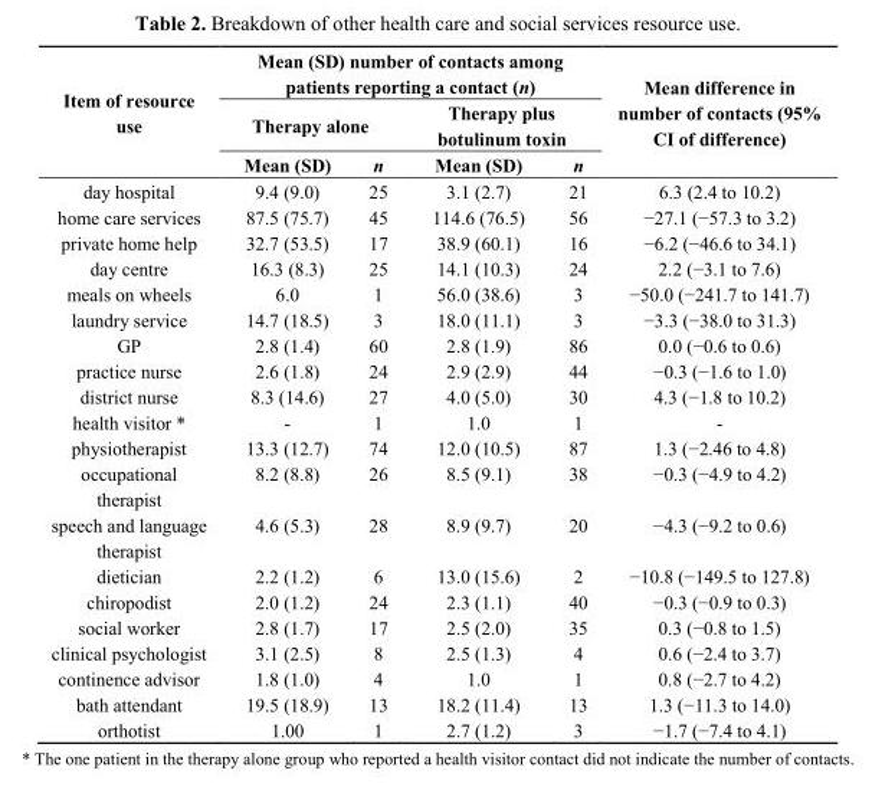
<table><thead><tr><td rowspan="3">Item of resource use</td><td colspan="4">Mean (SD) number of contacts among patients reporting a contact (n)</td><td rowspan="3">Mean difference in number of contacts (95% CI of difference)</td></tr><tr><td colspan="2">Therapy alone</td><td colspan="2">Therapy plus botulinum toxin</td></tr><tr><td>Mean (SD)</td><td>n</td><td>Mean (SD)</td><td>n</td></tr></thead><tbody><tr><td>day hospital</td><td>9.4 (9.0)</td><td>25</td><td>3.1 (2.7)</td><td>21</td><td>6.3 (2.4 to 10.2)</td></tr><tr><td>home care services</td><td>87.5 (75.7)</td><td>45</td><td>114.6 (76.5)</td><td>56</td><td>−27.1 (−57.3 to 3.2)</td></tr><tr><td>private home help</td><td>32.7 (53.5)</td><td>17</td><td>38.9 (60.1)</td><td>16</td><td>−6.2 (−46.6 to 34.1)</td></tr><tr><td>day centre</td><td>16.3 (8.3)</td><td>25</td><td>14.1 (10.3)</td><td>24</td><td>2.2 (−3.1 to 7.6)</td></tr><tr><td>meals on wheels</td><td>6.0</td><td>1</td><td>56.0 (38.6)</td><td>3</td><td>−50.0 (−241.7 to 141.7)</td></tr><tr><td>laundry service</td><td>14.7 (18.5)</td><td>3</td><td>18.0 (11.1)</td><td>3</td><td>−3.3 (−38.0 to 31.3)</td></tr><tr><td>GP</td><td>2.8 (1.4)</td><td>60</td><td>2.8 (1.9)</td><td>86</td><td>0.0 (−0.6 to 0.6)</td></tr><tr><td>practice nurse</td><td>2.6 (1.8)</td><td>24</td><td>2.9 (2.9)</td><td>44</td><td>−0.3 (−1.6 to 1.0)</td></tr><tr><td>district nurse</td><td>8.3 (14.6)</td><td>27</td><td>4.0 (5.0)</td><td>30</td><td>4.3 (−1.8 to 10.2)</td></tr><tr><td>health visitor *</td><td>-</td><td>1</td><td>1.0</td><td>1</td><td>-</td></tr><tr><td>physiotherapist</td><td>13.3 (12.7)</td><td>74</td><td>12.0 (10.5)</td><td>87</td><td>1.3 (−2.46 to 4.8)</td></tr><tr><td>occupational therapist</td><td>8.2 (8.8)</td><td>26</td><td>8.5 (9.1)</td><td>38</td><td>−0.3 (−4.9 to 4.2)</td></tr><tr><td>speech and language therapist</td><td>4.6 (5.3)</td><td>28</td><td>8.9 (9.7)</td><td>20</td><td>−4.3 (−9.2 to 0.6)</td></tr><tr><td>dietician</td><td>2.2 (1.2)</td><td>6</td><td>13.0 (15.6)</td><td>2</td><td>−10.8 (−149.5 to 127.8)</td></tr><tr><td>chiropodist</td><td>2.0 (1.2)</td><td>24</td><td>2.3 (1.1)</td><td>40</td><td>−0.3 (−0.9 to 0.3)</td></tr><tr><td>social worker</td><td>2.8 (1.7)</td><td>17</td><td>2.5 (2.0)</td><td>35</td><td>0.3 (−0.8 to 1.5)</td></tr><tr><td>clinical psychologist</td><td>3.1 (2.5)</td><td>8</td><td>2.5 (1.3)</td><td>4</td><td>0.6 (−2.4 to 3.7)</td></tr><tr><td>continence advisor</td><td>1.8 (1.0)</td><td>4</td><td>1.0</td><td>1</td><td>0.8 (−2.7 to 4.2)</td></tr><tr><td>bath attendant</td><td>19.5 (18.9)</td><td>13</td><td>18.2 (11.4)</td><td>13</td><td>1.3 (−11.3 to 14.0)</td></tr><tr><td>orthotist</td><td>1.00</td><td>1</td><td>2.7 (1.2)</td><td>3</td><td>−1.7 (−7.4 to 4.1)</td></tr></tbody></table>